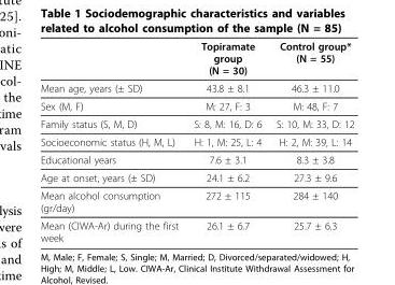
<table><thead><tr><td></td><td>Topiramate group (N = 30)</td><td>Control group* (N = 55)</td></tr></thead><tbody><tr><td>Mean age, years (± SD)</td><td>43.8 ± 8.1</td><td>46.3 ± 11.0</td></tr><tr><td>Sex (M, F)</td><td>M: 27, F: 3</td><td>M: 48, F: 7</td></tr><tr><td>Family status (S, M, D)</td><td>S: 8, M: 16, D: 6</td><td>S: 10, M: 33, D: 12</td></tr><tr><td>Socioeconomic status (H, M, L)</td><td>H: 1, M: 25, L: 4</td><td>H: 2, M: 39, L: 14</td></tr><tr><td>Educational years</td><td>7.6 ± 3.1</td><td>8.3 ± 3.8</td></tr><tr><td>Age at onset, years (± SD)</td><td>24.1 ± 6.2</td><td>27.3 ± 9.6</td></tr><tr><td>Mean alcohol consumption (gr/day)</td><td>272 ± 115</td><td>284 ± 140</td></tr><tr><td>Mean (CIWA-Ar) during the first week</td><td>26.1 ± 6.7</td><td>25.7 ± 6.3</td></tr></tbody></table>